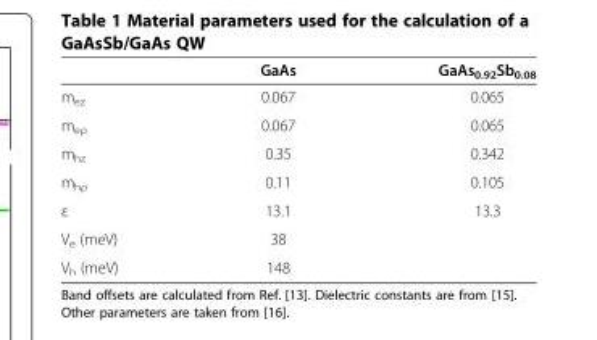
<table><thead><tr><td></td><td>GaAs</td><td>GaAs<sub>0.92</sub>Sb<sub>0.08</sub></td></tr></thead><tbody><tr><td>m<sub>ez</sub></td><td>0.067</td><td>0.065</td></tr><tr><td>m<sub>eρ</sub></td><td>0.067</td><td>0.065</td></tr><tr><td>m<sub>hz</sub></td><td>0.35</td><td>0.342</td></tr><tr><td>m<sub>hρ</sub></td><td>0.11</td><td>0.105</td></tr><tr><td>ε</td><td>13.1</td><td>13.3</td></tr><tr><td>V<sub>e</sub> (meV)</td><td>38</td><td></td></tr><tr><td>V<sub>h</sub> (meV)</td><td>148</td><td></td></tr></tbody></table>